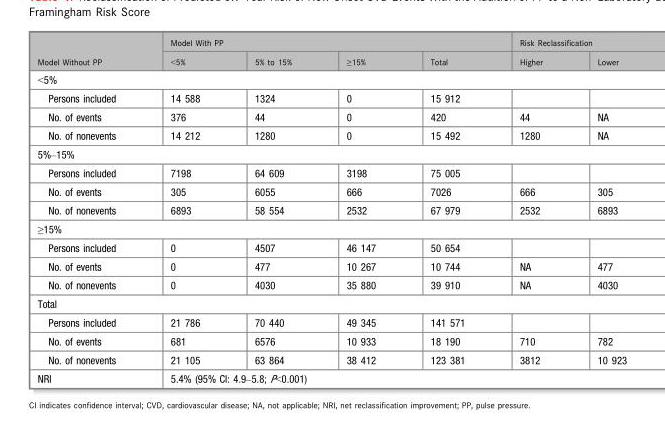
<table><thead><tr><td rowspan="2">Model Without PP</td><td colspan="4">Model With PP</td><td colspan="2">Risk Reclassification</td></tr><tr><td>&lt;5%</td><td>5% to 15%</td><td>≥15%</td><td>Total</td><td>Higher</td><td>Lower</td></tr></thead><tbody><tr><td colspan="7">&lt;5%</td></tr><tr><td>Persons included</td><td>14 588</td><td>1324</td><td>0</td><td>15 912</td><td></td><td></td></tr><tr><td>No. of events</td><td>376</td><td>44</td><td>0</td><td>420</td><td>44</td><td>NA</td></tr><tr><td>No. of nonevents</td><td>14 212</td><td>1280</td><td>0</td><td>15 492</td><td>1280</td><td>NA</td></tr><tr><td colspan="7">5%–15%</td></tr><tr><td>Persons included</td><td>7198</td><td>64 609</td><td>3198</td><td>75 005</td><td></td><td></td></tr><tr><td>No. of events</td><td>305</td><td>6055</td><td>666</td><td>7026</td><td>666</td><td>305</td></tr><tr><td>No. of nonevents</td><td>6893</td><td>58 554</td><td>2532</td><td>67 979</td><td>2532</td><td>6893</td></tr><tr><td colspan="7">≥15%</td></tr><tr><td>Persons included</td><td>0</td><td>4507</td><td>46 147</td><td>50 654</td><td></td><td></td></tr><tr><td>No. of events</td><td>0</td><td>477</td><td>10 267</td><td>10 744</td><td>NA</td><td>477</td></tr><tr><td>No. of nonevents</td><td>0</td><td>4030</td><td>35 880</td><td>39 910</td><td>NA</td><td>4030</td></tr><tr><td colspan="7">Total</td></tr><tr><td>Persons included</td><td>21 786</td><td>70 440</td><td>49 345</td><td>141 571</td><td></td><td></td></tr><tr><td>No. of events</td><td>681</td><td>6576</td><td>10 933</td><td>18 190</td><td>710</td><td>782</td></tr><tr><td>No. of nonevents</td><td>21 105</td><td>63 864</td><td>38 412</td><td>123 381</td><td>3812</td><td>10 923</td></tr><tr><td>NRI</td><td colspan="6">5.4% (95% CI: 4.9–5.8; P&lt;0.001)</td></tr></tbody></table>